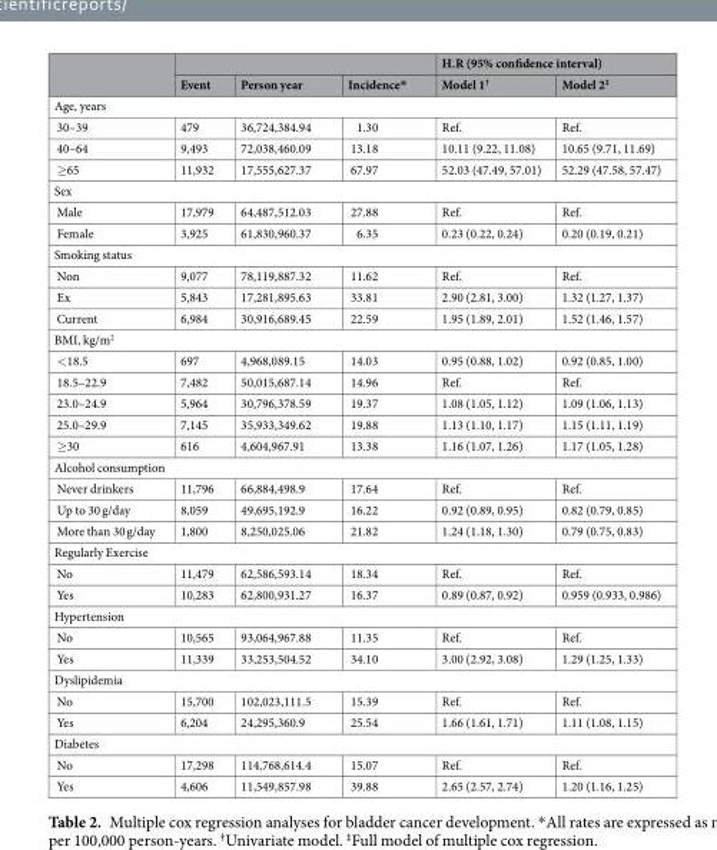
<table><thead><tr><td rowspan="2"></td><td rowspan="2">Event</td><td rowspan="2">Person year</td><td rowspan="2">Incidence*</td><td colspan="2">H.R (95% confidence interval)</td></tr><tr><td>Model 1<sup>†</sup></td><td>Model 2<sup>‡</sup></td></tr></thead><tbody><tr><td colspan="6">Age, years</td></tr><tr><td>30–39</td><td>479</td><td>36,724,384.94</td><td>1.30</td><td>Ref.</td><td>Ref.</td></tr><tr><td>40–64</td><td>9,493</td><td>72,038,460.09</td><td>13.18</td><td>10.11 (9.22, 11.08)</td><td>10.65 (9.71, 11.69)</td></tr><tr><td>≥65</td><td>11,932</td><td>17,555,627.37</td><td>67.97</td><td>52.03 (47.49, 57.01)</td><td>52.29 (47.58, 57.47)</td></tr><tr><td colspan="6">Sex</td></tr><tr><td>Male</td><td>17,979</td><td>64,487,512.03</td><td>27.88</td><td>Ref.</td><td>Ref.</td></tr><tr><td>Female</td><td>3,925</td><td>61,830,960.37</td><td>6.35</td><td>0.23 (0.22, 0.24)</td><td>0.20 (0.19, 0.21)</td></tr><tr><td colspan="6">Smoking status</td></tr><tr><td>Non</td><td>9,077</td><td>78,119,887.32</td><td>11.62</td><td>Ref.</td><td>Ref.</td></tr><tr><td>Ex</td><td>5,843</td><td>17,281,895.63</td><td>33.81</td><td>2.90 (2.81, 3.00)</td><td>1.32 (1.27, 1.37)</td></tr><tr><td>Current</td><td>6,984</td><td>30,916,689.45</td><td>22.59</td><td>1.95 (1.89, 2.01)</td><td>1.52 (1.46, 1.57)</td></tr><tr><td colspan="6">BMI, kg/m<sup>2</sup></td></tr><tr><td>&lt;18.5</td><td>697</td><td>4,968,089.15</td><td>14.03</td><td>0.95 (0.88, 1.02)</td><td>0.92 (0.85, 1.00)</td></tr><tr><td>18.5–22.9</td><td>7,482</td><td>50,015,687.14</td><td>14.96</td><td>Ref.</td><td>Ref.</td></tr><tr><td>23.0–24.9</td><td>5,964</td><td>30,796,378.59</td><td>19.37</td><td>1.08 (1.05, 1.12)</td><td>1.09 (1.06, 1.13)</td></tr><tr><td>25.0–29.9</td><td>7,145</td><td>35,933,349.62</td><td>19.88</td><td>1.13 (1.10, 1.17)</td><td>1.15 (1.11, 1.19)</td></tr><tr><td>≥30</td><td>616</td><td>4,604,967.91</td><td>13.38</td><td>1.16 (1.07, 1.26)</td><td>1.17 (1.05, 1.28)</td></tr><tr><td colspan="6">Alcohol consumption</td></tr><tr><td>Never drinkers</td><td>11,796</td><td>66,884,498.9</td><td>17.64</td><td>Ref.</td><td>Ref.</td></tr><tr><td>Up to 30 g/day</td><td>8,059</td><td>49,695,192.9</td><td>16.22</td><td>0.92 (0.89, 0.95)</td><td>0.82 (0.79, 0.85)</td></tr><tr><td>More than 30 g/day</td><td>1,800</td><td>8,250,025.06</td><td>21.82</td><td>1.24 (1.18, 1.30)</td><td>0.79 (0.75, 0.83)</td></tr><tr><td colspan="6">Regularly Exercise</td></tr><tr><td>No</td><td>11,479</td><td>62,586,593.14</td><td>18.34</td><td>Ref.</td><td>Ref.</td></tr><tr><td>Yes</td><td>10,283</td><td>62,800,931.27</td><td>16.37</td><td>0.89 (0.87, 0.92)</td><td>0.959 (0.933, 0.986)</td></tr><tr><td colspan="6">Hypertension</td></tr><tr><td>No</td><td>10,565</td><td>93,064,967.88</td><td>11.35</td><td>Ref.</td><td>Ref.</td></tr><tr><td>Yes</td><td>11,339</td><td>33,253,504.52</td><td>34.10</td><td>3.00 (2.92, 3.08)</td><td>1.29 (1.25, 1.33)</td></tr><tr><td colspan="6">Dyslipidemia</td></tr><tr><td>No</td><td>15,700</td><td>102,023,111.5</td><td>15.39</td><td>Ref.</td><td>Ref.</td></tr><tr><td>Yes</td><td>6,204</td><td>24,295,360.9</td><td>25.54</td><td>1.66 (1.61, 1.71)</td><td>1.11 (1.08, 1.15)</td></tr><tr><td colspan="6">Diabetes</td></tr><tr><td>No</td><td>17,298</td><td>114,768,614.4</td><td>15.07</td><td>Ref.</td><td>Ref.</td></tr><tr><td>Yes</td><td>4,606</td><td>11,549,857.98</td><td>39.88</td><td>2.65 (2.57, 2.74)</td><td>1.20 (1.16, 1.25)</td></tr></tbody></table>